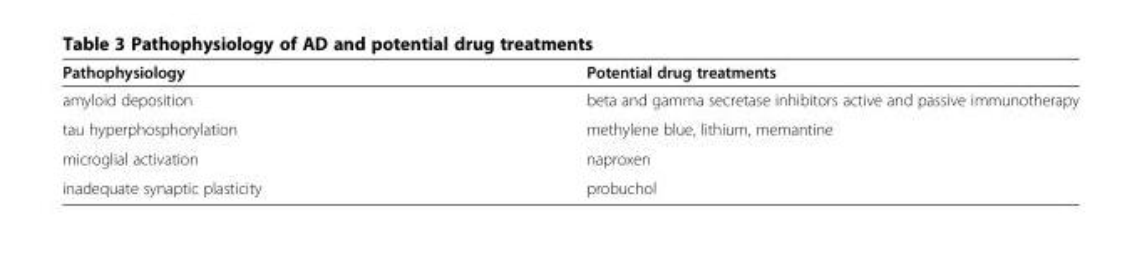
<table><thead><tr><td>Pathophysiology</td><td>Potential drug treatments</td></tr></thead><tbody><tr><td>amyloid deposition</td><td>beta and gamma secretase inhibitors active and passive immunotherapy</td></tr><tr><td>tau hyperphosphorylation</td><td>methylene blue, lithium, memantine</td></tr><tr><td>microglial activation</td><td>naproxen</td></tr><tr><td>inadequate synaptic plasticity</td><td>probuchol</td></tr></tbody></table>